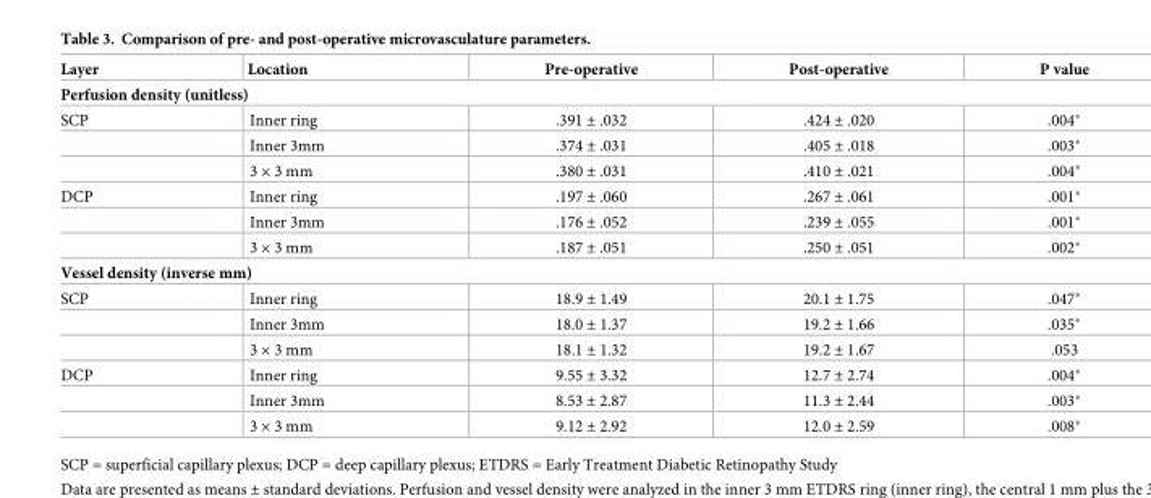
<table><thead><tr><td>Layer</td><td>Location</td><td>Pre-operative</td><td>Post-operative</td><td>P value</td></tr></thead><tbody><tr><td colspan="5">Perfusion density (unitless)</td></tr><tr><td rowspan="3">SCP</td><td>Inner ring</td><td>.391 ± .032</td><td>.424 ± .020</td><td>.004*</td></tr><tr><td>Inner 3mm</td><td>.374 ± .031</td><td>.405 ± .018</td><td>.003*</td></tr><tr><td>3 × 3 mm</td><td>.380 ± .031</td><td>.410 ± .021</td><td>.004*</td></tr><tr><td rowspan="3">DCP</td><td>Inner ring</td><td>.197 ± .060</td><td>.267 ± .061</td><td>.001*</td></tr><tr><td>Inner 3mm</td><td>.176 ± .052</td><td>.239 ± .055</td><td>.001*</td></tr><tr><td>3 × 3 mm</td><td>.187 ± .051</td><td>.250 ± .051</td><td>.002*</td></tr><tr><td colspan="5">Vessel density (inverse mm)</td></tr><tr><td rowspan="3">SCP</td><td>Inner ring</td><td>18.9 ± 1.49</td><td>20.1 ± 1.75</td><td>.047*</td></tr><tr><td>Inner 3mm</td><td>18.0 ± 1.37</td><td>19.2 ± 1.66</td><td>.035*</td></tr><tr><td>3 × 3 mm</td><td>18.1 ± 1.32</td><td>19.2 ± 1.67</td><td>.053</td></tr><tr><td rowspan="3">DCP</td><td>Inner ring</td><td>9.55 ± 3.32</td><td>12.7 ± 2.74</td><td>.004*</td></tr><tr><td>Inner 3mm</td><td>8.53 ± 2.87</td><td>11.3 ± 2.44</td><td>.003*</td></tr><tr><td>3 × 3 mm</td><td>9.12 ± 2.92</td><td>12.0 ± 2.59</td><td>.008*</td></tr></tbody></table>